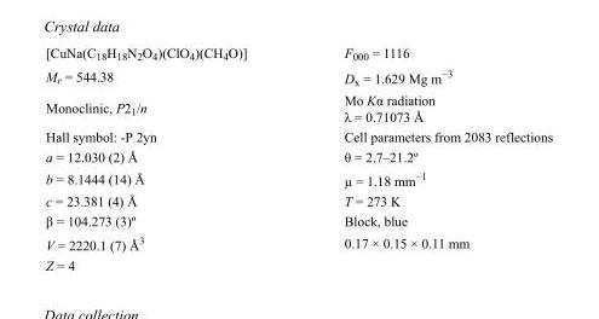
<table><tbody><tr><td>[CuNa(C<sub>18</sub>H<sub>18</sub>N<sub>2</sub>O<sub>4</sub>)(ClO<sub>4</sub>)(CH<sub>4</sub>O)]</td><td>F000 = 1116</td></tr><tr><td>M<sub>r</sub> = 544.38</td><td>D<sub>x</sub> = 1.629 Mg m<sup>−3</sup></td></tr><tr><td>Monoclinic, P2<sub>1</sub>/n</td><td>Mo Kα radiation λ = 0.71073 Å</td></tr><tr><td>Hall symbol: -P 2yn</td><td>Cell parameters from 2083 reflections</td></tr><tr><td>a = 12.030 (2) Å</td><td>θ = 2.7–21.2º</td></tr><tr><td>b = 8.1444 (14) Å</td><td>µ = 1.18 mm<sup>−1</sup></td></tr><tr><td>c = 23.381 (4) Å</td><td>T = 273 K</td></tr><tr><td>β = 104.273 (3)º</td><td>Block, blue</td></tr><tr><td>V = 2220.1 (7) Å<sup>3</sup></td><td>0.17 × 0.15 × 0.11 mm</td></tr><tr><td>Z = 4</td><td></td></tr></tbody></table>